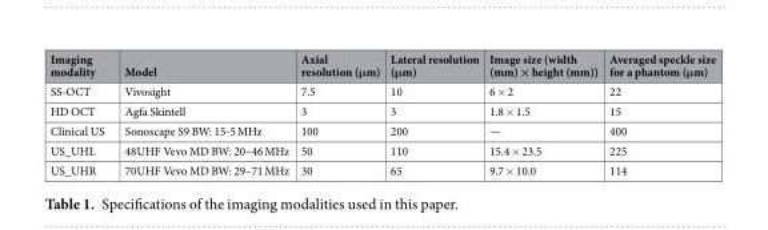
<table><thead><tr><td>Imaging modality</td><td>Model</td><td>Axial resolution (μm)</td><td>Lateral resolution (μm)</td><td>Image size (width (mm) × height (mm))</td><td>Averaged speckle size for a phantom (μm)</td></tr></thead><tbody><tr><td>SS-OCT</td><td>Vivosight</td><td>7.5</td><td>10</td><td>6 × 2</td><td>22</td></tr><tr><td>HD OCT</td><td>Agfa Skintell</td><td>3</td><td>3</td><td>1.8 × 1.5</td><td>15</td></tr><tr><td>Clinical US</td><td>Sonoscape S9 BW: 15-5 MHz</td><td>100</td><td>200</td><td>—</td><td>400</td></tr><tr><td>US_UHL</td><td>48UHF Vevo MD BW: 20–46 MHz</td><td>50</td><td>110</td><td>15.4 × 23.5</td><td>225</td></tr><tr><td>US_UHR</td><td>70UHF Vevo MD BW: 29–71 MHz</td><td>30</td><td>65</td><td>9.7 × 10.0</td><td>114</td></tr></tbody></table>